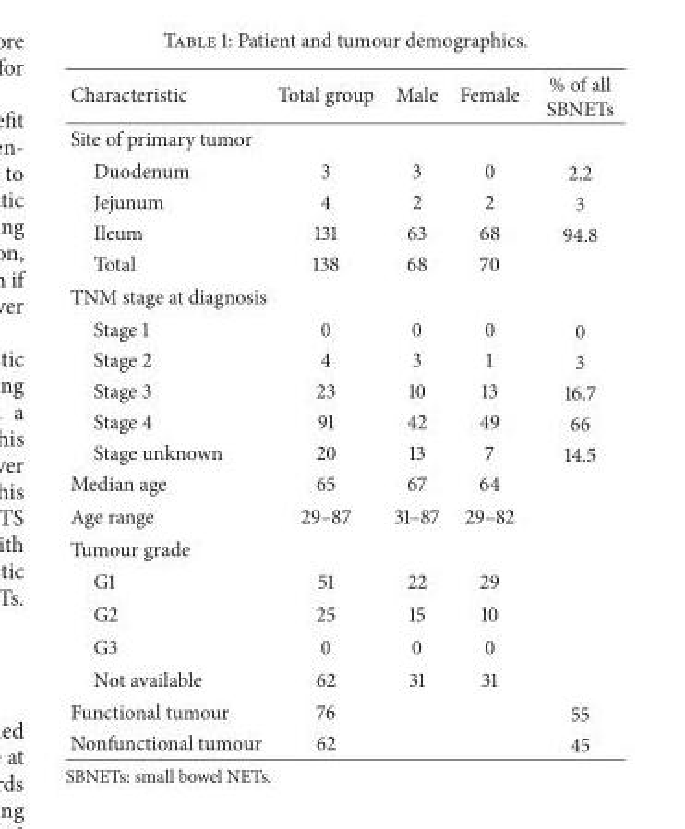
<table><thead><tr><td>Characteristic</td><td>Total group</td><td>Male</td><td>Female</td><td>% of all SBNETs</td></tr></thead><tbody><tr><td colspan="5">Site of primary tumor</td></tr><tr><td>Duodenum</td><td>3</td><td>3</td><td>0</td><td>2.2</td></tr><tr><td>Jejunum</td><td>4</td><td>2</td><td>2</td><td>3</td></tr><tr><td>Ileum</td><td>131</td><td>63</td><td>68</td><td>94.8</td></tr><tr><td>Total</td><td>138</td><td>68</td><td>70</td><td></td></tr><tr><td colspan="5">TNM stage at diagnosis</td></tr><tr><td>Stage 1</td><td>0</td><td>0</td><td>0</td><td>0</td></tr><tr><td>Stage 2</td><td>4</td><td>3</td><td>1</td><td>3</td></tr><tr><td>Stage 3</td><td>23</td><td>10</td><td>13</td><td>16.7</td></tr><tr><td>Stage 4</td><td>91</td><td>42</td><td>49</td><td>66</td></tr><tr><td>Stage unknown</td><td>20</td><td>13</td><td>7</td><td>14.5</td></tr><tr><td>Median age</td><td>65</td><td>67</td><td>64</td><td></td></tr><tr><td>Age range</td><td>29–87</td><td>31–87</td><td>29–82</td><td></td></tr><tr><td colspan="5">Tumour grade</td></tr><tr><td>G1</td><td>51</td><td>22</td><td>29</td><td></td></tr><tr><td>G2</td><td>25</td><td>15</td><td>10</td><td></td></tr><tr><td>G3</td><td>0</td><td>0</td><td>0</td><td></td></tr><tr><td>Not available</td><td>62</td><td>31</td><td>31</td><td></td></tr><tr><td>Functional tumour</td><td>76</td><td></td><td></td><td>55</td></tr><tr><td>Nonfunctional tumour</td><td>62</td><td></td><td></td><td>45</td></tr></tbody></table>